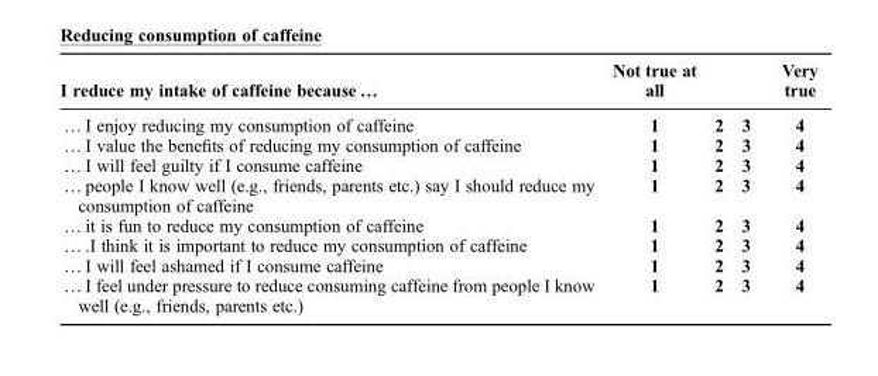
<table><thead><tr><td>I reduce my intake of caffeine because …</td><td>Not true at all</td><td></td><td></td><td>Very true</td></tr></thead><tbody><tr><td>… I enjoy reducing my consumption of caffeine</td><td>1</td><td>2</td><td>3</td><td>4</td></tr><tr><td>… I value the benefits of reducing my consumption of caffeine</td><td>1</td><td>2</td><td>3</td><td>4</td></tr><tr><td>… I will feel guilty if I consume caffeine</td><td>1</td><td>2</td><td>3</td><td>4</td></tr><tr><td>… people I know well (e.g., friends, parents etc.) say I should reduce my consumption of caffeine</td><td>1</td><td>2</td><td>3</td><td>4</td></tr><tr><td>… it is fun to reduce my consumption of caffeine</td><td>1</td><td>2</td><td>3</td><td>4</td></tr><tr><td>… .I think it is important to reduce my consumption of caffeine</td><td>1</td><td>2</td><td>3</td><td>4</td></tr><tr><td>… I will feel ashamed if I consume caffeine</td><td>1</td><td>2</td><td>3</td><td>4</td></tr><tr><td>… I feel under pressure to reduce consuming caffeine from people I know well (e.g., friends, parents etc.)</td><td>1</td><td>2</td><td>3</td><td>4</td></tr></tbody></table>